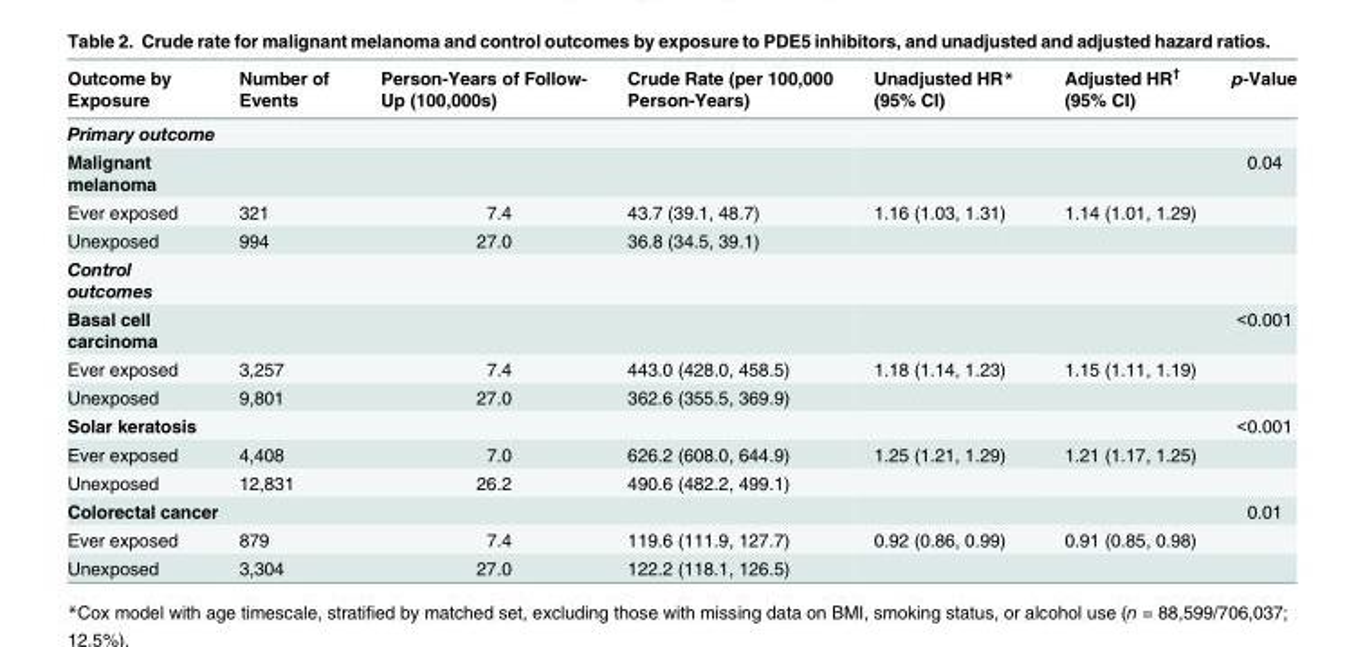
<table><thead><tr><td>Outcome by Exposure</td><td>Number of Events</td><td>Person-Years of Follow- Up (100,000s)</td><td>Crude Rate (per 100,000 Person-Years)</td><td>Unadjusted HR* (95% CI)</td><td>Adjusted HR<sup>†</sup> (95% CI)</td><td>p-Value</td></tr></thead><tbody><tr><td colspan="7">Primary outcome</td></tr><tr><td>Malignant melanoma</td><td></td><td></td><td></td><td></td><td></td><td>0.04</td></tr><tr><td>Ever exposed</td><td>321</td><td>7.4</td><td>43.7 (39.1, 48.7)</td><td>1.16 (1.03, 1.31)</td><td>1.14 (1.01, 1.29)</td><td></td></tr><tr><td>Unexposed</td><td>994</td><td>27.0</td><td>36.8 (34.5, 39.1)</td><td></td><td></td><td></td></tr><tr><td colspan="7">Control outcomes</td></tr><tr><td>Basal cell carcinoma</td><td></td><td></td><td></td><td></td><td></td><td>&lt;0.001</td></tr><tr><td>Ever exposed</td><td>3,257</td><td>7.4</td><td>443.0 (428.0, 458.5)</td><td>1.18 (1.14, 1.23)</td><td>1.15 (1.11, 1.19)</td><td></td></tr><tr><td>Unexposed</td><td>9,801</td><td>27.0</td><td>362.6 (355.5, 369.9)</td><td></td><td></td><td></td></tr><tr><td>Solar keratosis</td><td></td><td></td><td></td><td></td><td></td><td>&lt;0.001</td></tr><tr><td>Ever exposed</td><td>4,408</td><td>7.0</td><td>626.2 (608.0, 644.9)</td><td>1.25 (1.21, 1.29)</td><td>1.21 (1.17, 1.25)</td><td></td></tr><tr><td>Unexposed</td><td>12,831</td><td>26.2</td><td>490.6 (482.2, 499.1)</td><td></td><td></td><td></td></tr><tr><td>Colorectal cancer</td><td></td><td></td><td></td><td></td><td></td><td>0.01</td></tr><tr><td>Ever exposed</td><td>879</td><td>7.4</td><td>119.6 (111.9, 127.7)</td><td>0.92 (0.86, 0.99)</td><td>0.91 (0.85, 0.98)</td><td></td></tr><tr><td>Unexposed</td><td>3,304</td><td>27.0</td><td>122.2 (118.1, 126.5)</td><td></td><td></td><td></td></tr></tbody></table>